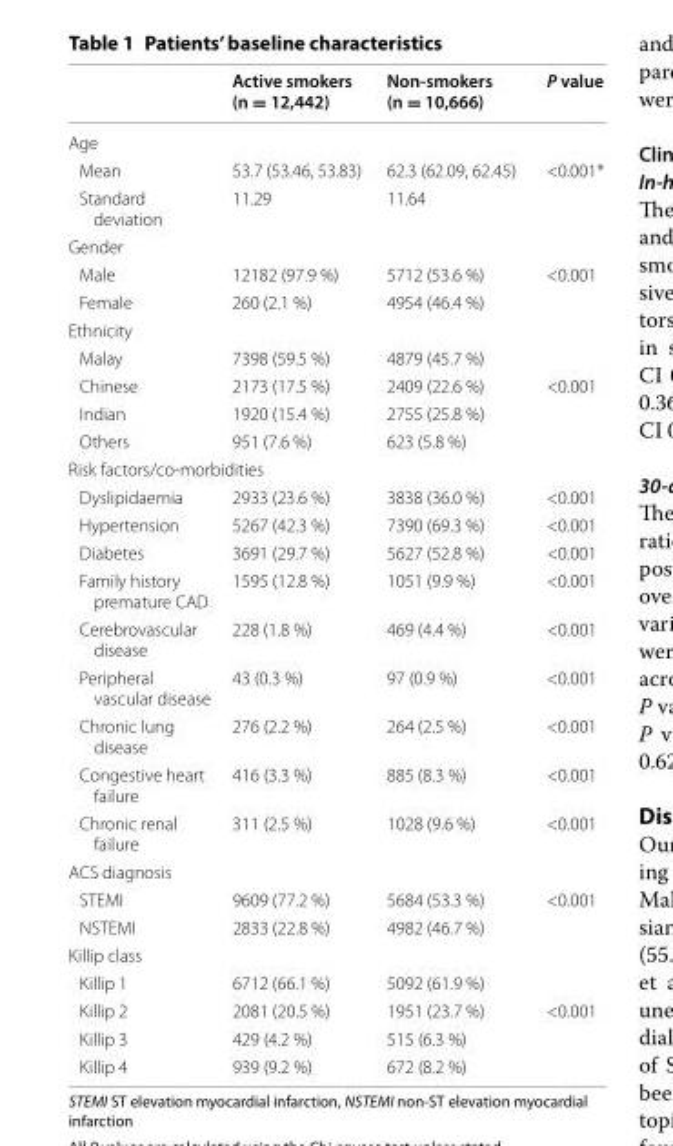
<table><thead><tr><td></td><td>Active smokers (n = 12,442)</td><td>Non‑smokers (n = 10,666)</td><td>P value</td></tr></thead><tbody><tr><td colspan="4">Age</td></tr><tr><td>Mean</td><td>53.7 (53.46, 53.83)</td><td>62.3 (62.09, 62.45)</td><td>&lt;0.001*</td></tr><tr><td>Standard deviation</td><td>11.29</td><td>11.64</td><td></td></tr><tr><td colspan="4">Gender</td></tr><tr><td>Male</td><td>12182 (97.9 %)</td><td>5712 (53.6 %)</td><td>&lt;0.001</td></tr><tr><td>Female</td><td>260 (2.1 %)</td><td>4954 (46.4 %)</td><td></td></tr><tr><td colspan="4">Ethnicity</td></tr><tr><td>Malay</td><td>7398 (59.5 %)</td><td>4879 (45.7 %)</td><td></td></tr><tr><td>Chinese</td><td>2173 (17.5 %)</td><td>2409 (22.6 %)</td><td>&lt;0.001</td></tr><tr><td>Indian</td><td>1920 (15.4 %)</td><td>2755 (25.8 %)</td><td></td></tr><tr><td>Others</td><td>951 (7.6 %)</td><td>623 (5.8 %)</td><td></td></tr><tr><td colspan="4">Risk factors/co-morbidities</td></tr><tr><td>Dyslipidaemia</td><td>2933 (23.6 %)</td><td>3838 (36.0 %)</td><td>&lt;0.001</td></tr><tr><td>Hypertension</td><td>5267 (42.3 %)</td><td>7390 (69.3 %)</td><td>&lt;0.001</td></tr><tr><td>Diabetes</td><td>3691 (29.7 %)</td><td>5627 (52.8 %)</td><td>&lt;0.001</td></tr><tr><td>Family history premature CAD</td><td>1595 (12.8 %)</td><td>1051 (9.9 %)</td><td>&lt;0.001</td></tr><tr><td>Cerebrovascular disease</td><td>228 (1.8 %)</td><td>469 (4.4 %)</td><td>&lt;0.001</td></tr><tr><td>Peripheral vascular disease</td><td>43 (0.3 %)</td><td>97 (0.9 %)</td><td>&lt;0.001</td></tr><tr><td>Chronic lung disease</td><td>276 (2.2 %)</td><td>264 (2.5 %)</td><td>&lt;0.001</td></tr><tr><td>Congestive heart failure</td><td>416 (3.3 %)</td><td>885 (8.3 %)</td><td>&lt;0.001</td></tr><tr><td>Chronic renal failure</td><td>311 (2.5 %)</td><td>1028 (9.6 %)</td><td>&lt;0.001</td></tr><tr><td colspan="4">ACS diagnosis</td></tr><tr><td>STEMI</td><td>9609 (77.2 %)</td><td>5684 (53.3 %)</td><td>&lt;0.001</td></tr><tr><td>NSTEMI</td><td>2833 (22.8 %)</td><td>4982 (46.7 %)</td><td></td></tr><tr><td colspan="4">Killip class</td></tr><tr><td>Killip 1</td><td>6712 (66.1 %)</td><td>5092 (61.9 %)</td><td></td></tr><tr><td>Killip 2</td><td>2081 (20.5 %)</td><td>1951 (23.7 %)</td><td>&lt;0.001</td></tr><tr><td>Killip 3</td><td>429 (4.2 %)</td><td>515 (6.3 %)</td><td></td></tr><tr><td>Killip 4</td><td>939 (9.2 %)</td><td>672 (8.2 %)</td><td></td></tr></tbody></table>